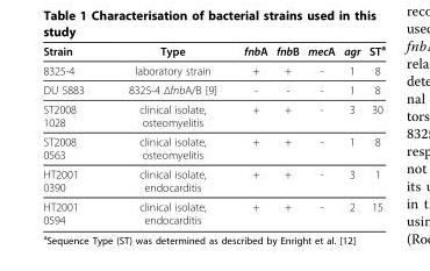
<table><thead><tr><td>Strain</td><td>Type</td><td>fnbA</td><td>fnbB</td><td>mecA</td><td>agr</td><td>ST<sup>a</sup></td></tr></thead><tbody><tr><td>8325-4</td><td>laboratory strain</td><td>+</td><td>+</td><td>-</td><td>1</td><td>8</td></tr><tr><td>DU 5883</td><td>8325-4 ΔfnbA/B [9]</td><td>-</td><td>-</td><td>-</td><td>1</td><td>8</td></tr><tr><td>ST2008 1028</td><td>clinical isolate, osteomyelitis</td><td>+</td><td>+</td><td>-</td><td>3</td><td>30</td></tr><tr><td>ST2008 0563</td><td>clinical isolate, osteomyelitis</td><td>+</td><td>+</td><td>-</td><td>1</td><td>8</td></tr><tr><td>HT2001 0390</td><td>clinical isolate, endocarditis</td><td>+</td><td>+</td><td>-</td><td>3</td><td>1</td></tr><tr><td>HT2001 0594</td><td>clinical isolate, endocarditis</td><td>+</td><td>+</td><td>-</td><td>2</td><td>15</td></tr></tbody></table>